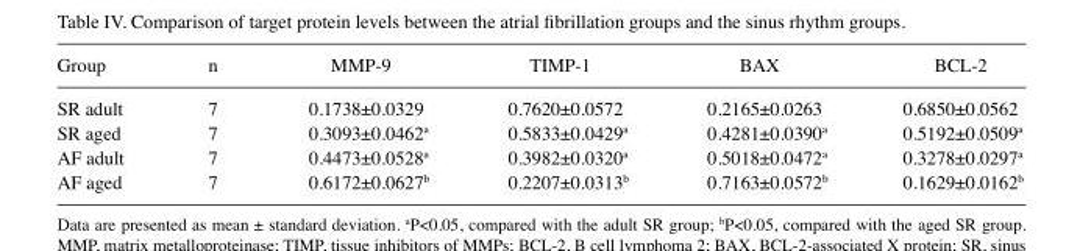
<table><thead><tr><td>Group</td><td>n</td><td>MMP-9</td><td>TIMP-1</td><td>BAX</td><td>BCL-2</td></tr></thead><tbody><tr><td>SR adult</td><td>7</td><td>0.1738±0.0329</td><td>0.7620±0.0572</td><td>0.2165±0.0263</td><td>0.6850±0.0562</td></tr><tr><td>SR aged</td><td>7</td><td>0.3093±0.0462<sup>a</sup></td><td>0.5833±0.0429<sup>a</sup></td><td>0.4281±0.0390<sup>a</sup></td><td>0.5192±0.0509<sup>a</sup></td></tr><tr><td>AF adult</td><td>7</td><td>0.4473±0.0528<sup>a</sup></td><td>0.3982±0.0320<sup>a</sup></td><td>0.5018±0.0472<sup>a</sup></td><td>0.3278±0.0297<sup>a</sup></td></tr><tr><td>AF aged</td><td>7</td><td>0.6172±0.0627<sup>b</sup></td><td>0.2207±0.0313<sup>b</sup></td><td>0.7163±0.0572<sup>b</sup></td><td>0.1629±0.0162<sup>b</sup></td></tr></tbody></table>